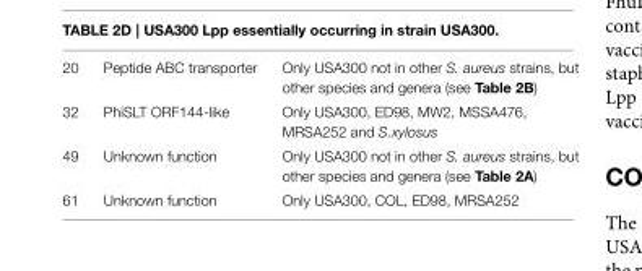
<table><tbody><tr><td>20</td><td>Peptide ABC transporter</td><td>Only USA300 not in other S. aureus strains, but other species and genera (see Table 2B)</td></tr><tr><td>32</td><td>PhiSLT ORF144-like</td><td>Only USA300, ED98, MW2, MSSA476, MRSA252 and S.xylosus</td></tr><tr><td>49</td><td>Unknown function</td><td>Only USA300 not in other S. aureus strains, but other species and genera (see Table 2A)</td></tr><tr><td>61</td><td>Unknown function</td><td>Only USA300, COL, ED98, MRSA252</td></tr></tbody></table>